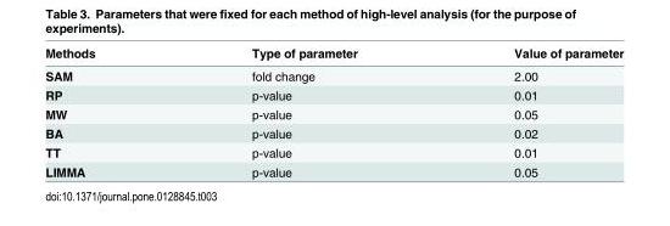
<table><thead><tr><td>Methods</td><td>Type of parameter</td><td>Value of parameter</td></tr></thead><tbody><tr><td>SAM</td><td>fold change</td><td>2.00</td></tr><tr><td>RP</td><td>p-value</td><td>0.01</td></tr><tr><td>MW</td><td>p-value</td><td>0.05</td></tr><tr><td>BA</td><td>p-value</td><td>0.02</td></tr><tr><td>TT</td><td>p-value</td><td>0.01</td></tr><tr><td>LIMMA</td><td>p-value</td><td>0.05</td></tr></tbody></table>